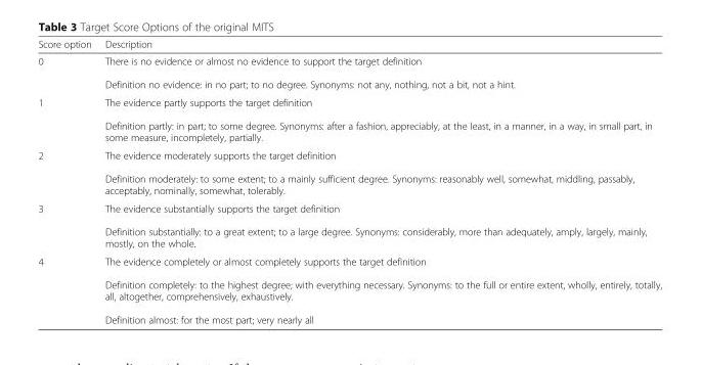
<table><thead><tr><td>Score option</td><td>Description</td></tr></thead><tbody><tr><td>0</td><td>There is no evidence or almost no evidence to support the target definition Definition no evidence: in no part; to no degree. Synonyms: not any, nothing, not a bit, not a hint.</td></tr><tr><td>1</td><td>The evidence partly supports the target definition Definition partly: in part; to some degree. Synonyms: after a fashion, appreciably, at the least, in a manner, in a way, in small part, in some measure, incompletely, partially.</td></tr><tr><td>2</td><td>The evidence moderately supports the target definition Definition moderately: to some extent; to a mainly sufficient degree. Synonyms: reasonably well, somewhat, middling, passably, acceptably, nominally, somewhat, tolerably.</td></tr><tr><td>3</td><td>The evidence substantially supports the target definition Definition substantially: to a great extent; to a large degree. Synonyms: considerably, more than adequately, amply, largely, mainly, mostly, on the whole.</td></tr><tr><td>4</td><td>The evidence completely or almost completely supports the target definition Definition completely: to the highest degree; with everything necessary. Synonyms: to the full or entire extent, wholly, entirely, totally, all, altogether, comprehensively, exhaustively. Definition almost: for the most part; very nearly all</td></tr></tbody></table>